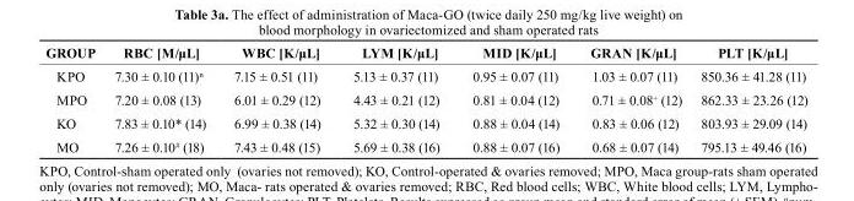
<table><thead><tr><td>GrOUP</td><td>RBC [M/μL]</td><td>WBC [K/μL]</td><td>LYM [K/μL]</td><td>MID [K/μL]</td><td>GRAN [K/μL]</td><td>PLT [K/μL]</td></tr></thead><tbody><tr><td>KPO</td><td>7.30 ± 0.10 (11)<sup>n</sup></td><td>7.15 ± 0.51 (11)</td><td>5.13 ± 0.37 (11)</td><td>0.95 ± 0.07 (11)</td><td>1.03 ± 0.07 (11)</td><td>850.36 ± 41.28 (11)</td></tr><tr><td>MPO</td><td>7.20 ± 0.08 (13)</td><td>6.01 ± 0.29 (12)</td><td>4.43 ± 0.21 (12)</td><td>0.81 ± 0.04 (12)</td><td>0.71 ± 0.08+ (12)</td><td>862.33 ± 23.26 (12)</td></tr><tr><td>KO</td><td>7.83 ± 0.10* (14)</td><td>6.99 ± 0.38 (14)</td><td>5.32 ± 0.30 (14)</td><td>0.88 ± 0.04 (14)</td><td>0.83 ± 0.06 (12)</td><td>803.93 ± 29.09 (14)</td></tr><tr><td>MO</td><td>7.26 ± 0.10# (18)</td><td>7.43 ± 0.48 (15)</td><td>5.69 ± 0.38 (16)</td><td>0.88 ± 0.07 (16)</td><td>0.68 ± 0.07 (14)</td><td>795.13 ± 49.46 (16)</td></tr></tbody></table>